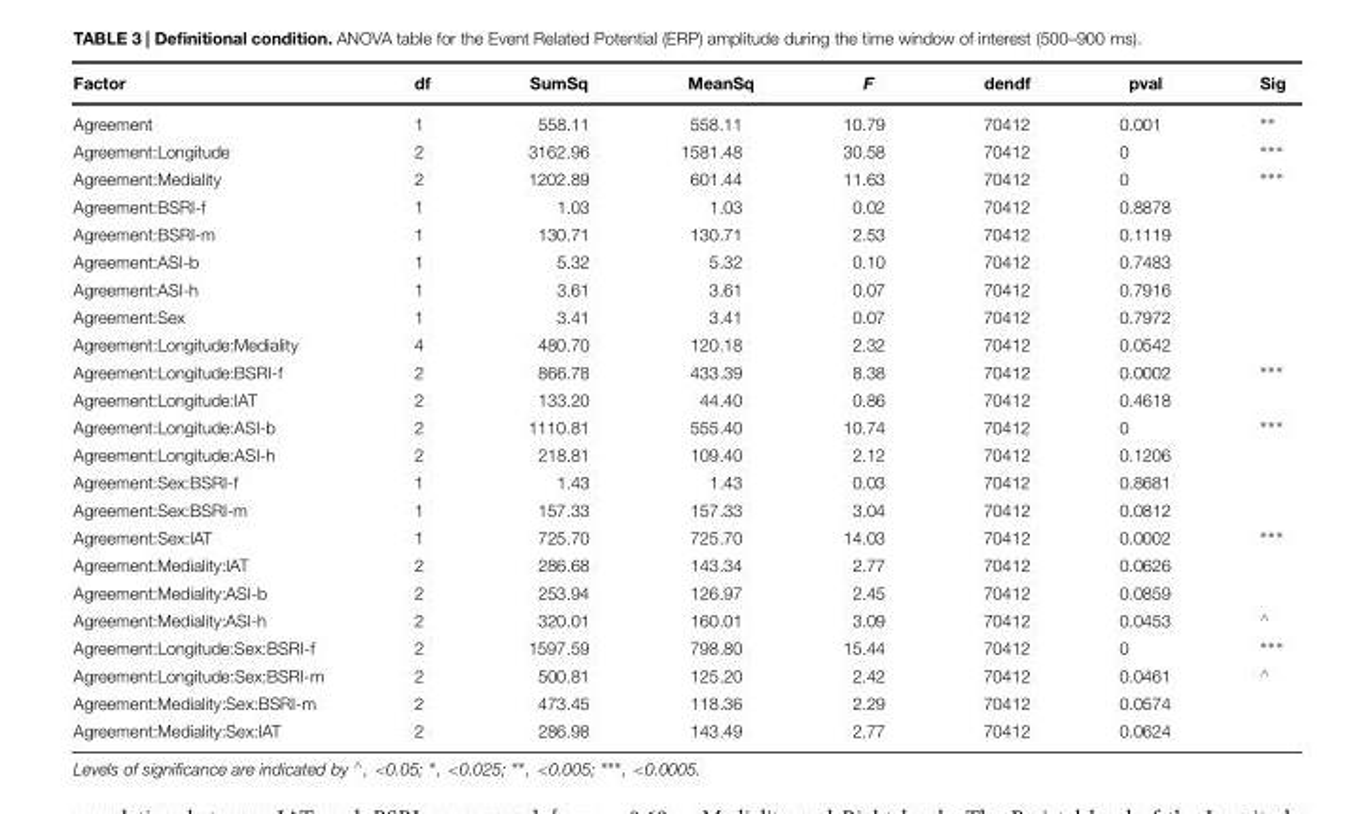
<table><thead><tr><td>Factor</td><td>df</td><td>SumSq</td><td>MeanSq</td><td>F</td><td>dendf</td><td>pval</td><td>Sig</td></tr></thead><tbody><tr><td>Agreement</td><td>1</td><td>558.11</td><td>558.11</td><td>10.79</td><td>70412</td><td>0.001</td><td>∗∗</td></tr><tr><td>Agreement:Longitude</td><td>2</td><td>3162.96</td><td>1581.48</td><td>30.58</td><td>70412</td><td>0</td><td>∗∗∗</td></tr><tr><td>Agreement:Mediality</td><td>2</td><td>1202.89</td><td>601.44</td><td>11.63</td><td>70412</td><td>0</td><td>∗∗∗</td></tr><tr><td>Agreement:BSRI-f</td><td>1</td><td>1.03</td><td>1.03</td><td>0.02</td><td>70412</td><td>0.8878</td><td></td></tr><tr><td>Agreement:BSRI-m</td><td>1</td><td>130.71</td><td>130.71</td><td>2.53</td><td>70412</td><td>0.1119</td><td></td></tr><tr><td>Agreement:ASI-b</td><td>1</td><td>5.32</td><td>5.32</td><td>0.10</td><td>70412</td><td>0.7483</td><td></td></tr><tr><td>Agreement:ASI-h</td><td>1</td><td>3.61</td><td>3.61</td><td>0.07</td><td>70412</td><td>0.7916</td><td></td></tr><tr><td>Agreement:Sex</td><td>1</td><td>3.41</td><td>3.41</td><td>0.07</td><td>70412</td><td>0.7972</td><td></td></tr><tr><td>Agreement:Longitude:Mediality</td><td>4</td><td>480.70</td><td>120.18</td><td>2.32</td><td>70412</td><td>0.0542</td><td></td></tr><tr><td>Agreement:Longitude:BSRI-f</td><td>2</td><td>866.78</td><td>433.39</td><td>8.38</td><td>70412</td><td>0.0002</td><td>∗∗∗</td></tr><tr><td>Agreement:Longitude:IAT</td><td>2</td><td>133.20</td><td>44.40</td><td>0.86</td><td>70412</td><td>0.4618</td><td></td></tr><tr><td>Agreement:Longitude:ASI-b</td><td>2</td><td>1110.81</td><td>555.40</td><td>10.74</td><td>70412</td><td>0</td><td>∗∗∗</td></tr><tr><td>Agreement:Longitude:ASI-h</td><td>2</td><td>218.81</td><td>109.40</td><td>2.12</td><td>70412</td><td>0.1206</td><td></td></tr><tr><td>Agreement:Sex:BSRI-f</td><td>1</td><td>1.43</td><td>1.43</td><td>0.03</td><td>70412</td><td>0.8681</td><td></td></tr><tr><td>Agreement:Sex:BSRI-m</td><td>1</td><td>157.33</td><td>157.33</td><td>3.04</td><td>70412</td><td>0.0812</td><td></td></tr><tr><td>Agreement:Sex:IAT</td><td>1</td><td>725.70</td><td>725.70</td><td>14.03</td><td>70412</td><td>0.0002</td><td>∗∗∗</td></tr><tr><td>Agreement:Mediality:IAT</td><td>2</td><td>286.68</td><td>143.34</td><td>2.77</td><td>70412</td><td>0.0626</td><td></td></tr><tr><td>Agreement:Mediality:ASI-b</td><td>2</td><td>253.94</td><td>126.97</td><td>2.45</td><td>70412</td><td>0.0859</td><td></td></tr><tr><td>Agreement:Mediality:ASI-h</td><td>2</td><td>320.01</td><td>160.01</td><td>3.09</td><td>70412</td><td>0.0453</td><td><sup>∧</sup></td></tr><tr><td>Agreement:Longitude:Sex:BSRI-f</td><td>2</td><td>1597.59</td><td>798.80</td><td>15.44</td><td>70412</td><td>0</td><td>∗∗∗</td></tr><tr><td>Agreement:Longitude:Sex:BSRI-m</td><td>2</td><td>500.81</td><td>125.20</td><td>2.42</td><td>70412</td><td>0.0461</td><td><sup>∧</sup></td></tr><tr><td>Agreement:Mediality:Sex:BSRI-m</td><td>2</td><td>473.45</td><td>118.36</td><td>2.29</td><td>70412</td><td>0.0574</td><td></td></tr><tr><td>Agreement:Mediality:Sex:IAT</td><td>2</td><td>286.98</td><td>143.49</td><td>2.77</td><td>70412</td><td>0.0624</td><td></td></tr></tbody></table>